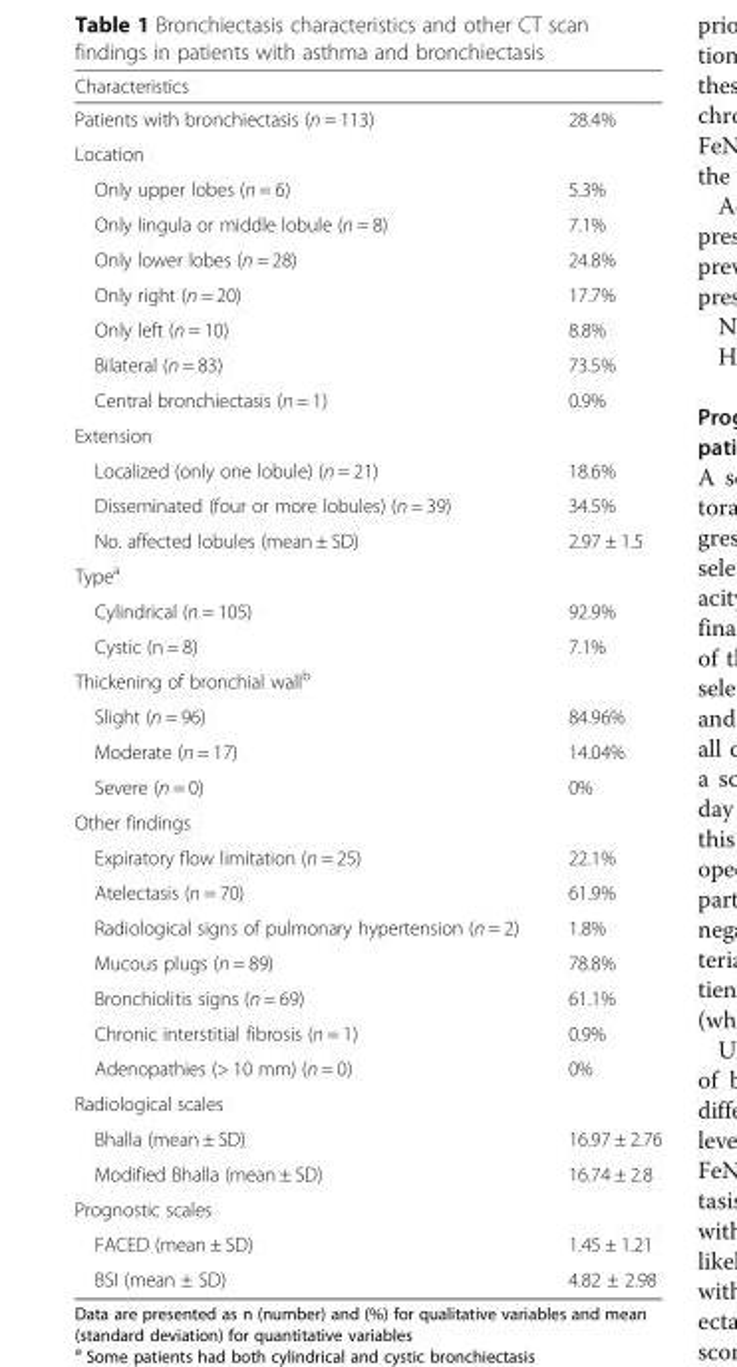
<table><thead><tr><td>Characteristics</td><td></td></tr></thead><tbody><tr><td>Patients with bronchiectasis (n = 113)</td><td>28.4%</td></tr><tr><td colspan="2">Location</td></tr><tr><td>Only upper lobes (n = 6)</td><td>5.3%</td></tr><tr><td>Only lingula or middle lobule (n = 8)</td><td>7.1%</td></tr><tr><td>Only lower lobes (n = 28)</td><td>24.8%</td></tr><tr><td>Only right (n = 20)</td><td>17.7%</td></tr><tr><td>Only left (n = 10)</td><td>8.8%</td></tr><tr><td>Bilateral (n = 83)</td><td>73.5%</td></tr><tr><td>Central bronchiectasis (n = 1)</td><td>0.9%</td></tr><tr><td colspan="2">Extension</td></tr><tr><td>Localized (only one lobule) (n = 21)</td><td>18.6%</td></tr><tr><td>Disseminated (four or more lobules) (n = 39)</td><td>34.5%</td></tr><tr><td>No. affected lobules (mean ± SD)</td><td>2.97 ± 1.5</td></tr><tr><td colspan="2">Type<sup>a</sup></td></tr><tr><td>Cylindrical (n = 105)</td><td>92.9%</td></tr><tr><td>Cystic (n = 8)</td><td>7.1%</td></tr><tr><td colspan="2">Thickening of bronchial wall<sup>b</sup></td></tr><tr><td>Slight (n = 96)</td><td>84.96%</td></tr><tr><td>Moderate (n = 17)</td><td>14.04%</td></tr><tr><td>Severe (n = 0)</td><td>0%</td></tr><tr><td colspan="2">Other findings</td></tr><tr><td>Expiratory flow limitation (n = 25)</td><td>22.1%</td></tr><tr><td>Atelectasis (n = 70)</td><td>61.9%</td></tr><tr><td>Radiological signs of pulmonary hypertension (n = 2)</td><td>1.8%</td></tr><tr><td>Mucous plugs (n = 89)</td><td>78.8%</td></tr><tr><td>Bronchiolitis signs (n = 69)</td><td>61.1%</td></tr><tr><td>Chronic interstitial fibrosis (n = 1)</td><td>0.9%</td></tr><tr><td>Adenopathies (&gt; 10 mm) (n = 0)</td><td>0%</td></tr><tr><td colspan="2">Radiological scales</td></tr><tr><td>Bhalla (mean ± SD)</td><td>16.97 ± 2.76</td></tr><tr><td>Modified Bhalla (mean ± SD)</td><td>16.74 ± 2.8</td></tr><tr><td colspan="2">Prognostic scales</td></tr><tr><td>FACED (mean ± SD)</td><td>1.45 ± 1.21</td></tr><tr><td>BSI (mean ± SD)</td><td>4.82 ± 2.98</td></tr></tbody></table>